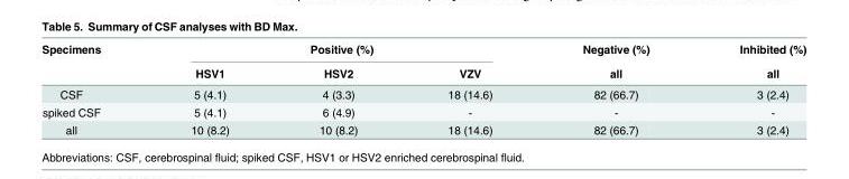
<table><thead><tr><td rowspan="2">Specimens</td><td colspan="3">Positive (%)</td><td rowspan="2">Negative (%) all</td><td rowspan="2">Inhibited (%) all</td></tr><tr><td>HSV1</td><td>HSV2</td><td>VZV</td></tr></thead><tbody><tr><td>CSF</td><td>5 (4.1)</td><td>4 (3.3)</td><td>18 (14.6)</td><td>82 (66.7)</td><td>3 (2.4)</td></tr><tr><td>spiked CSF</td><td>5 (4.1)</td><td>6 (4.9)</td><td>-</td><td>-</td><td>-</td></tr><tr><td>all</td><td>10 (8.2)</td><td>10 (8.2)</td><td>18 (14.6)</td><td>82 (66.7)</td><td>3 (2.4)</td></tr></tbody></table>